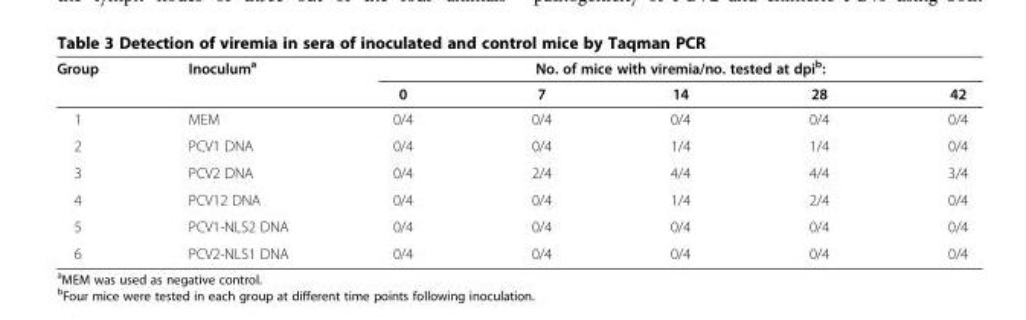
<table><thead><tr><td rowspan="2">Group</td><td rowspan="2">Inoculum<sup>a</sup></td><td colspan="5">No. of mice with viremia/no. tested at dpi<sup>b</sup>:</td></tr><tr><td>0</td><td>7</td><td>14</td><td>28</td><td>42</td></tr></thead><tbody><tr><td>1</td><td>MEM</td><td>0/4</td><td>0/4</td><td>0/4</td><td>0/4</td><td>0/4</td></tr><tr><td>2</td><td>PCV1 DNA</td><td>0/4</td><td>0/4</td><td>1/4</td><td>1/4</td><td>0/4</td></tr><tr><td>3</td><td>PCV2 DNA</td><td>0/4</td><td>2/4</td><td>4/4</td><td>4/4</td><td>3/4</td></tr><tr><td>4</td><td>PCV12 DNA</td><td>0/4</td><td>0/4</td><td>1/4</td><td>2/4</td><td>0/4</td></tr><tr><td>5</td><td>PCV1-NLS2 DNA</td><td>0/4</td><td>0/4</td><td>0/4</td><td>0/4</td><td>0/4</td></tr><tr><td>6</td><td>PCV2-NLS1 DNA</td><td>0/4</td><td>0/4</td><td>0/4</td><td>0/4</td><td>0/4</td></tr></tbody></table>